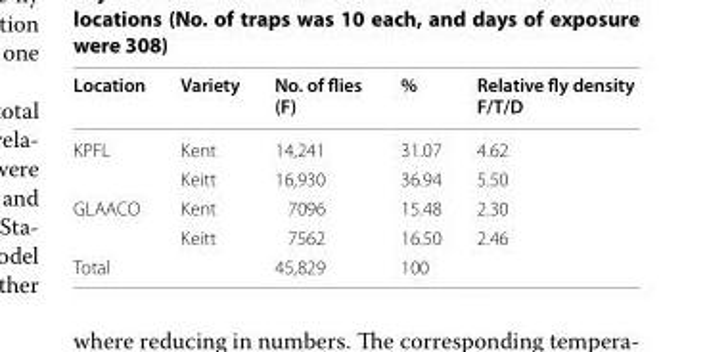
<table><thead><tr><td>Location</td><td>Variety</td><td>No. of flies (F)</td><td>%</td><td>Relative fly density F/T/D</td></tr></thead><tbody><tr><td rowspan="2">KPFL</td><td>Kent</td><td>14,241</td><td>31.07</td><td>4.62</td></tr><tr><td>Keitt</td><td>16,930</td><td>36.94</td><td>5.50</td></tr><tr><td rowspan="2">GLAACO</td><td>Kent</td><td>7096</td><td>15.48</td><td>2.30</td></tr><tr><td>Keitt</td><td>7562</td><td>16.50</td><td>2.46</td></tr><tr><td>Total</td><td></td><td>45,829</td><td>100</td><td></td></tr></tbody></table>